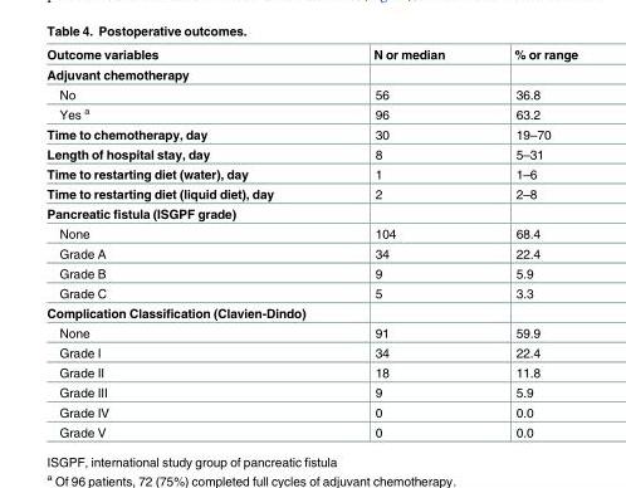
<table><thead><tr><td>Outcome variables</td><td>N or median</td><td>% or range</td></tr></thead><tbody><tr><td colspan="3">Adjuvant chemotherapy</td></tr><tr><td>No</td><td>56</td><td>36.8</td></tr><tr><td>Yes <sup>a</sup></td><td>96</td><td>63.2</td></tr><tr><td>Time to chemotherapy, day</td><td>30</td><td>19–70</td></tr><tr><td>Length of hospital stay, day</td><td>8</td><td>5–31</td></tr><tr><td>Time to restarting diet (water), day</td><td>1</td><td>1–6</td></tr><tr><td>Time to restarting diet (liquid diet), day</td><td>2</td><td>2–8</td></tr><tr><td colspan="3">Pancreatic fistula (ISGPF grade)</td></tr><tr><td>None</td><td>104</td><td>68.4</td></tr><tr><td>Grade A</td><td>34</td><td>22.4</td></tr><tr><td>Grade B</td><td>9</td><td>5.9</td></tr><tr><td>Grade C</td><td>5</td><td>3.3</td></tr><tr><td colspan="3">Complication Classification (Clavien-Dindo)</td></tr><tr><td>None</td><td>91</td><td>59.9</td></tr><tr><td>Grade I</td><td>34</td><td>22.4</td></tr><tr><td>Grade II</td><td>18</td><td>11.8</td></tr><tr><td>Grade III</td><td>9</td><td>5.9</td></tr><tr><td>Grade IV</td><td>0</td><td>0.0</td></tr><tr><td>Grade V</td><td>0</td><td>0.0</td></tr></tbody></table>